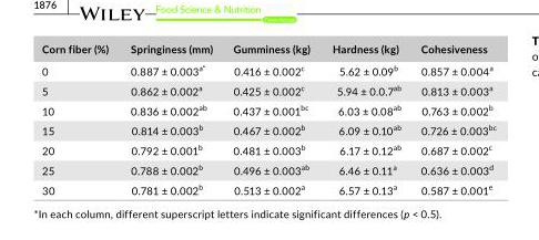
<table><thead><tr><td>Corn fiber (%)</td><td>Springiness (mm)</td><td>Gumminess (kg)</td><td>Hardness (kg)</td><td>Cohesiveness</td></tr></thead><tbody><tr><td>0</td><td>0.887 ± 0.003<sup>a</sup>*</td><td>0.416 ± 0.002<sup>c</sup></td><td>5.62 ± 0.09<sup>b</sup></td><td>0.857 ± 0.004<sup>a</sup></td></tr><tr><td>5</td><td>0.862 ± 0.002<sup>a</sup></td><td>0.425 ± 0.002<sup>c</sup></td><td>5.94 ± 0.0.7<sup>ab</sup></td><td>0.813 ± 0.003<sup>a</sup></td></tr><tr><td>10</td><td>0.836 ± 0.002<sup>ab</sup></td><td>0.437 ± 0.001<sup>bc</sup></td><td>6.03 ± 0.08<sup>ab</sup></td><td>0.763 ± 0.002<sup>b</sup></td></tr><tr><td>15</td><td>0.814 ± 0.003<sup>b</sup></td><td>0.467 ± 0.002<sup>b</sup></td><td>6.09 ± 0.10<sup>ab</sup></td><td>0.726 ± 0.003<sup>bc</sup></td></tr><tr><td>20</td><td>0.792 ± 0.001<sup>b</sup></td><td>0.481 ± 0.003<sup>b</sup></td><td>6.17 ± 0.12<sup>ab</sup></td><td>0.687 ± 0.002<sup>c</sup></td></tr><tr><td>25</td><td>0.788 ± 0.002<sup>b</sup></td><td>0.496 ± 0.003<sup>ab</sup></td><td>6.46 ± 0.11<sup>a</sup></td><td>0.636 ± 0.003<sup>d</sup></td></tr><tr><td>30</td><td>0.781 ± 0.002<sup>b</sup></td><td>0.513 ± 0.002<sup>a</sup></td><td>6.57 ± 0.13<sup>a</sup></td><td>0.587 ± 0.001<sup>e</sup></td></tr></tbody></table>